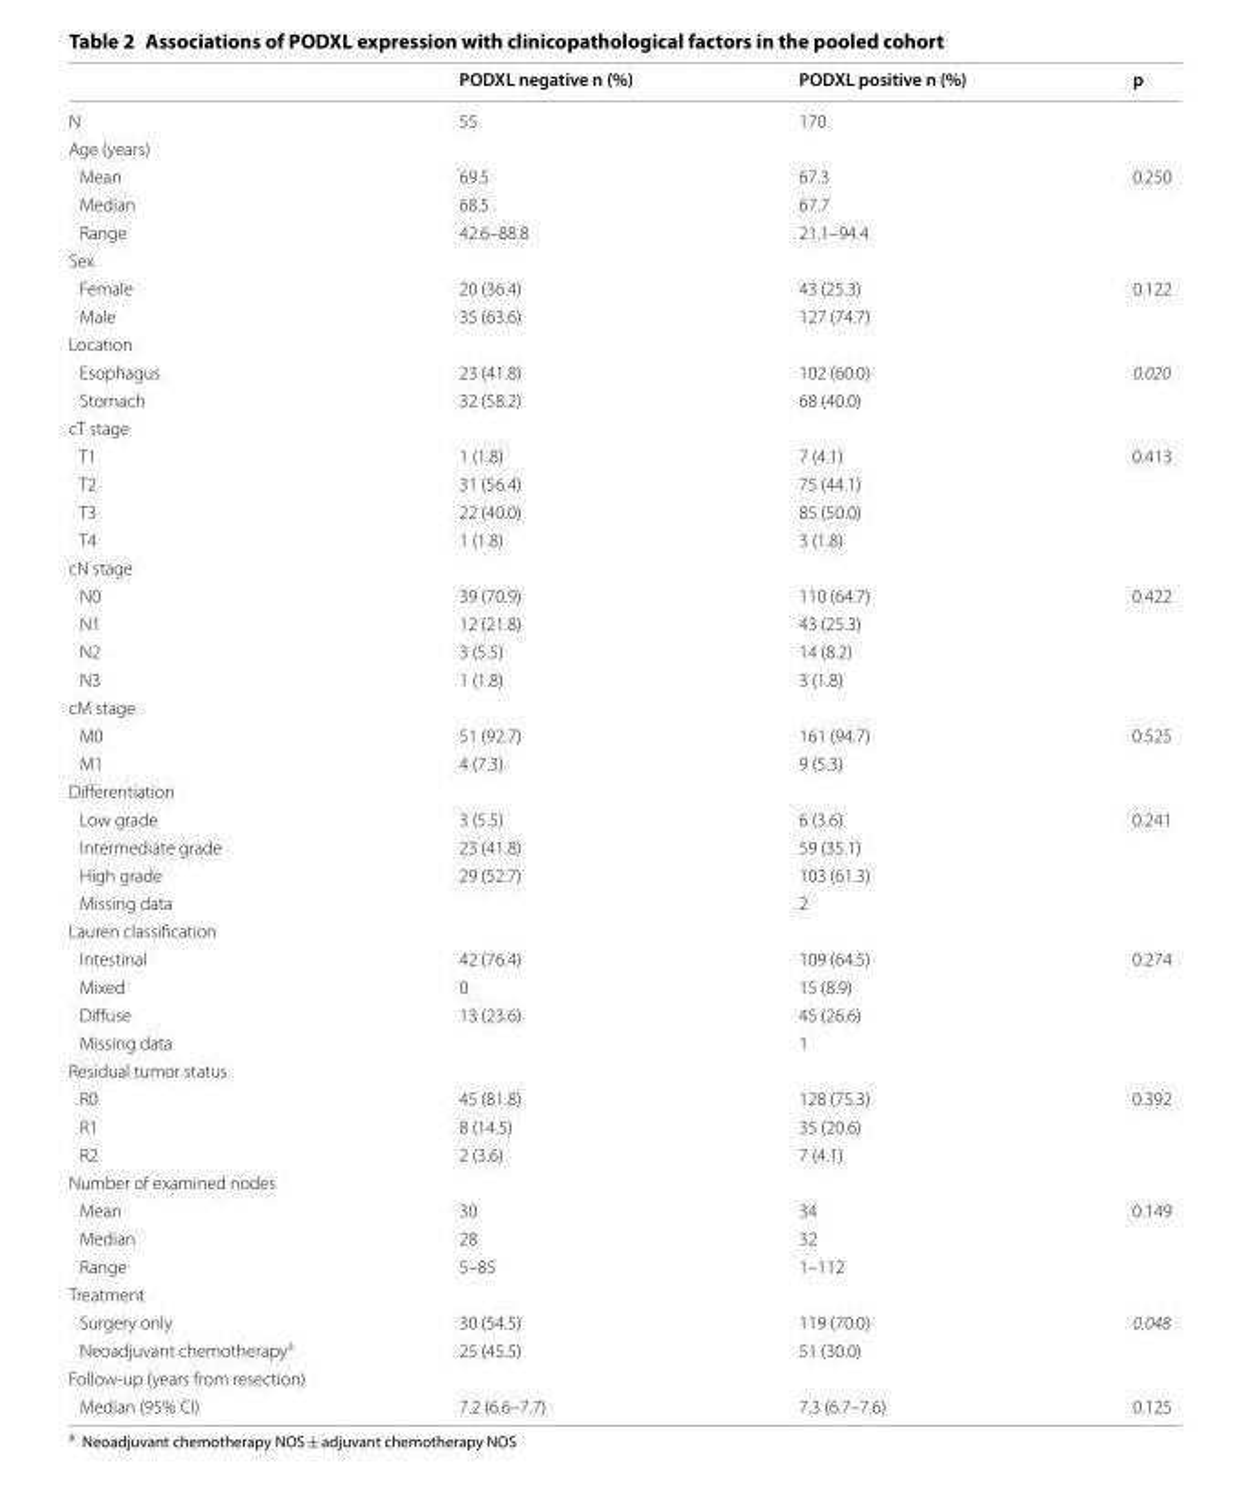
<table><thead><tr><td></td><td>PODXL negative n (%)</td><td>PODXL positive n (%)</td><td>p</td></tr></thead><tbody><tr><td>N</td><td>55</td><td>170</td><td></td></tr><tr><td colspan="4">Age (years)</td></tr><tr><td>Mean</td><td>69.5</td><td>67.3</td><td rowspan="3">0.250</td></tr><tr><td>Median</td><td>68.5</td><td>67.7</td></tr><tr><td>Range</td><td>42.6–88.8</td><td>21.1–94.4</td></tr><tr><td colspan="4">Sex</td></tr><tr><td>Female</td><td>20 (36.4)</td><td>43 (25.3)</td><td rowspan="2">0.122</td></tr><tr><td>Male</td><td>35 (63.6)</td><td>127 (74.7)</td></tr><tr><td colspan="4">Location</td></tr><tr><td>Esophagus</td><td>23 (41.8)</td><td>102 (60.0)</td><td rowspan="2">0.020</td></tr><tr><td>Stomach</td><td>32 (58.2)</td><td>68 (40.0)</td></tr><tr><td colspan="4">cT stage</td></tr><tr><td>T1</td><td>1 (1.8)</td><td>7 (4.1)</td><td rowspan="4">0.413</td></tr><tr><td>T2</td><td>31 (56.4)</td><td>75 (44.1)</td></tr><tr><td>T3</td><td>22 (40.0)</td><td>85 (50.0)</td></tr><tr><td>T4</td><td>1 (1.8)</td><td>3 (1.8)</td></tr><tr><td colspan="4">cN stage</td></tr><tr><td>N0</td><td>39 (70.9)</td><td>110 (64.7)</td><td rowspan="4">0.422</td></tr><tr><td>N1</td><td>12 (21.8)</td><td>43 (25.3)</td></tr><tr><td>N2</td><td>3 (5.5)</td><td>14 (8.2)</td></tr><tr><td>N3</td><td>1 (1.8)</td><td>3 (1.8)</td></tr><tr><td colspan="4">cM stage</td></tr><tr><td>M0</td><td>51 (92.7)</td><td>161 (94.7)</td><td rowspan="2">0.525</td></tr><tr><td>M1</td><td>4 (7.3)</td><td>9 (5.3)</td></tr><tr><td colspan="4">Differentiation</td></tr><tr><td>Low grade</td><td>3 (5.5)</td><td>6 (3.6)</td><td rowspan="4">0.241</td></tr><tr><td>Intermediate grade</td><td>23 (41.8)</td><td>59 (35.1)</td></tr><tr><td>High grade</td><td>29 (52.7)</td><td>103 (61.3)</td></tr><tr><td>Missing data</td><td></td><td>2</td></tr><tr><td colspan="4">Lauren classification</td></tr><tr><td>Intestinal</td><td>42 (76.4)</td><td>109 (64.5)</td><td rowspan="4">0.274</td></tr><tr><td>Mixed</td><td>0</td><td>15 (8.9)</td></tr><tr><td>Diffuse</td><td>13 (23.6)</td><td>45 (26.6)</td></tr><tr><td>Missing data</td><td></td><td>1</td></tr><tr><td colspan="4">Residual tumor status</td></tr><tr><td>R0</td><td>45 (81.8)</td><td>128 (75.3)</td><td rowspan="3">0.392</td></tr><tr><td>R1</td><td>8 (14.5)</td><td>35 (20.6)</td></tr><tr><td>R2</td><td>2 (3.6)</td><td>7 (4.1)</td></tr><tr><td colspan="4">Number of examined nodes</td></tr><tr><td>Mean</td><td>30</td><td>34</td><td rowspan="3">0.149</td></tr><tr><td>Median</td><td>28</td><td>32</td></tr><tr><td>Range</td><td>5–85</td><td>1–112</td></tr><tr><td colspan="4">Treatment</td></tr><tr><td>Surgery only</td><td>30 (54.5)</td><td>119 (70.0)</td><td rowspan="2">0.048</td></tr><tr><td>Neoadjuvant chemotherapy<sup>a</sup></td><td>25 (45.5)</td><td>51 (30.0)</td></tr><tr><td colspan="4">Follow-up (years from resection)</td></tr><tr><td>Median (95% CI)</td><td>7.2 (6.6–7.7)</td><td>7.3 (6.7–7.6)</td><td>0.125</td></tr></tbody></table>